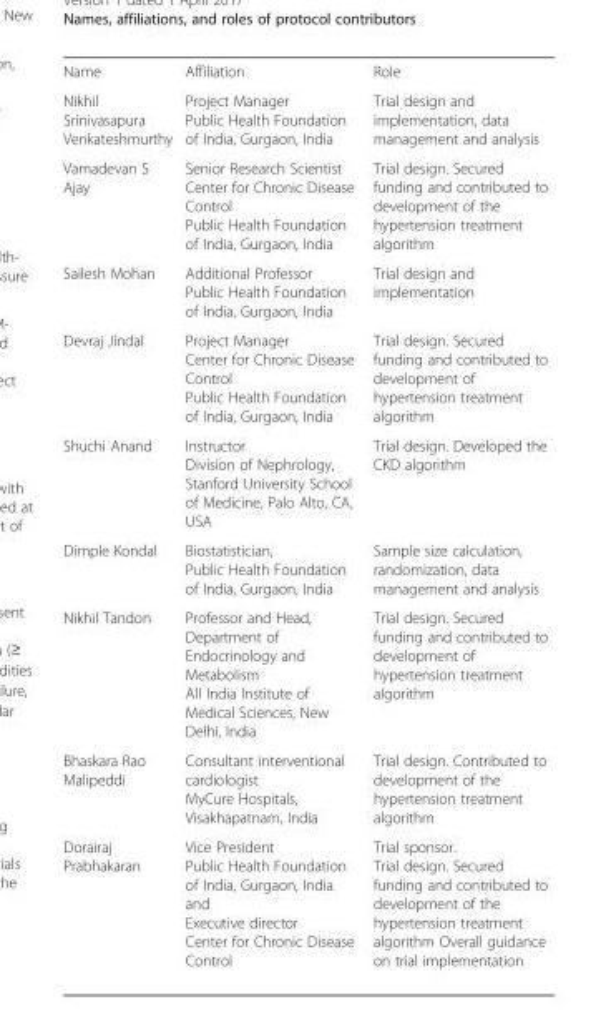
<table><tbody><tr><td>Name</td><td>Affiliation</td><td>Role</td></tr><tr><td>Nikhil Srinivasapura Venkateshmurthy</td><td>Project Manager Public Health Foundation of India, Gurgaon, India</td><td>Trial design and implementation, data management and analysis</td></tr><tr><td>Vamadevan S Ajay</td><td>Senior Research Scientist Center for Chronic Disease Control Public Health Foundation of India, Gurgaon, India</td><td>Trial design. Secured funding and contributed to development of the hypertension treatment algorithm</td></tr><tr><td>Sailesh Mohan</td><td>Additional Professor Public Health Foundation of India, Gurgaon, India</td><td>Trial design and implementation</td></tr><tr><td>Devraj Jindal</td><td>Project Manager Center for Chronic Disease Control Public Health Foundation of India, Gurgaon, India</td><td>Trial design. Secured funding and contributed to development of hypertension treatment algorithm</td></tr><tr><td>Shuchi Anand</td><td>Instructor Division of Nephrology, Stanford University School of Medicine, Palo Alto, CA, USA</td><td>Trial design. Developed the CKD algorithm</td></tr><tr><td>Dimple Kondal</td><td>Biostatistician, Public Health Foundation of India, Gurgaon, India</td><td>Sample size calculation, randomization, data management and analysis</td></tr><tr><td>Nikhil Tandon</td><td>Professor and Head, Department of Endocrinology and Metabolism All India Institute of Medical Sciences, New Delhi, India</td><td>Trial design. Secured funding and contributed to development of hypertension treatment algorithm</td></tr><tr><td>Bhaskara Rao Malipeddi</td><td>Consultant interventional cardiologist MyCure Hospitals, Visakhapatnam, India</td><td>Trial design. Contributed to development of the hypertension treatment algorithm</td></tr><tr><td>Dorairaj Prabhakaran</td><td>Vice President Public Health Foundation of India, Gurgaon, India and Executive director Center for Chronic Disease Control</td><td>Trial sponsor. Trial design. Secured funding and contributed to development of the hypertension treatment algorithm Overall guidance on trial implementation</td></tr></tbody></table>